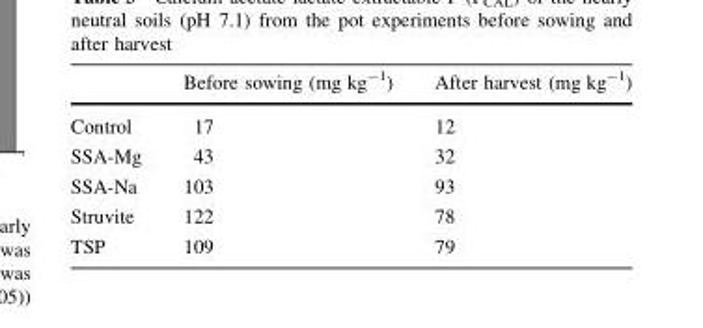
<table><thead><tr><td></td><td>Before sowing (mg kg<sup>-1</sup>)</td><td>After harvest (mg kg<sup>-1</sup>)</td></tr></thead><tbody><tr><td>Control</td><td>17</td><td>12</td></tr><tr><td>SSA-Mg</td><td>43</td><td>32</td></tr><tr><td>SSA-Na</td><td>103</td><td>93</td></tr><tr><td>Struvite</td><td>122</td><td>78</td></tr><tr><td>TSP</td><td>109</td><td>79</td></tr></tbody></table>